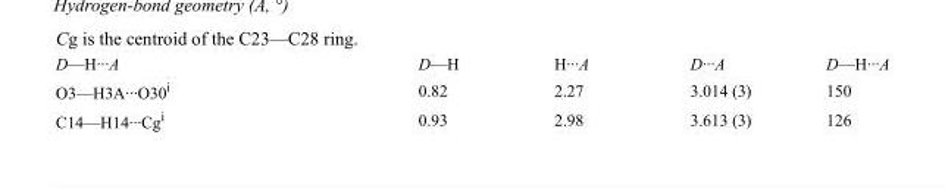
<table><tbody><tr><td>D—H···A</td><td>D—H</td><td>H···A</td><td>D···A</td><td>D—H···A</td></tr><tr><td>O3—H3A···O30<sup>i</sup></td><td>0.82</td><td>2.27</td><td>3.014 (3)</td><td>150</td></tr><tr><td>C14—H14···Cg<sup>i</sup></td><td>0.93</td><td>2.98</td><td>3.613 (3)</td><td>126</td></tr></tbody></table>